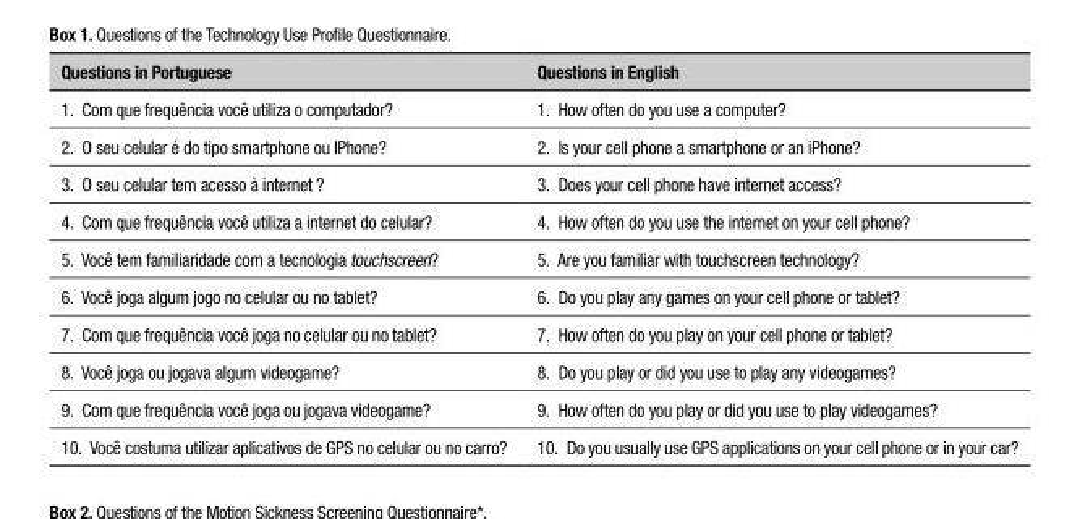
<table><thead><tr><td>Questions in Portuguese</td><td>Questions in English</td></tr></thead><tbody><tr><td>1. Com que frequência você utiliza o computador?</td><td>1. How often do you use a computer?</td></tr><tr><td>2. O seu celular é do tipo smartphone ou IPhone?</td><td>2. Is your cell phone a smartphone or an iPhone?</td></tr><tr><td>3. O seu celular tem acesso à internet ?</td><td>3. Does your cell phone have internet access?</td></tr><tr><td>4. Com que frequência você utiliza a internet do celular?</td><td>4. How often do you use the internet on your cell phone?</td></tr><tr><td>5. Você tem familiaridade com a tecnologia touchscreen?</td><td>5. Are you familiar with touchscreen technology?</td></tr><tr><td>6. Você joga algum jogo no celular ou no tablet?</td><td>6. Do you play any games on your cell phone or tablet?</td></tr><tr><td>7. Com que frequência você joga no celular ou no tablet?</td><td>7. How often do you play on your cell phone or tablet?</td></tr><tr><td>8. Você joga ou jogava algum videogame?</td><td>8. Do you play or did you use to play any videogames?</td></tr><tr><td>9. Com que frequência você joga ou jogava videogame?</td><td>9. How often do you play or did you use to play videogames?</td></tr><tr><td>10. Você costuma utilizar aplicativos de GPS no celular ou no carro?</td><td>10. Do you usually use GPS applications on your cell phone or in your car?</td></tr></tbody></table>